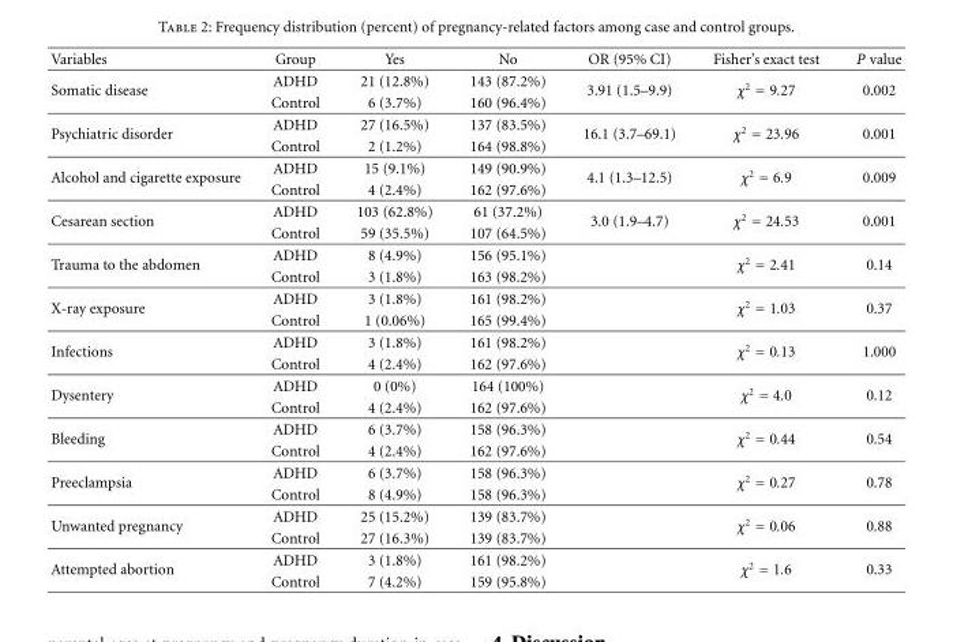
<table><thead><tr><td>Variables</td><td>Group</td><td>Yes</td><td>No</td><td>OR (95% CI)</td><td>Fisher’s exact test</td><td>P value</td></tr></thead><tbody><tr><td rowspan="2">Somatic disease</td><td>ADHD</td><td>21 (12.8%)</td><td>143 (87.2%)</td><td rowspan="2">3.91 (1.5–9.9)</td><td rowspan="2">χ<sup>2</sup> = 9.27</td><td rowspan="2">0.002</td></tr><tr><td>Control</td><td>6 (3.7%)</td><td>160 (96.4%)</td></tr><tr><td rowspan="2">Psychiatric disorder</td><td>ADHD</td><td>27 (16.5%)</td><td>137 (83.5%)</td><td rowspan="2">16.1 (3.7–69.1)</td><td rowspan="2">χ<sup>2</sup> = 23.96</td><td rowspan="2">0.001</td></tr><tr><td>Control</td><td>2 (1.2%)</td><td>164 (98.8%)</td></tr><tr><td rowspan="2">Alcohol and cigarette exposure</td><td>ADHD</td><td>15 (9.1%)</td><td>149 (90.9%)</td><td rowspan="2">4.1 (1.3–12.5)</td><td rowspan="2">χ<sup>2</sup> = 6.9</td><td rowspan="2">0.009</td></tr><tr><td>Control</td><td>4 (2.4%)</td><td>162 (97.6%)</td></tr><tr><td rowspan="2">Cesarean section</td><td>ADHD</td><td>103 (62.8%)</td><td>61 (37.2%)</td><td rowspan="2">3.0 (1.9–4.7)</td><td rowspan="2">χ<sup>2</sup> = 24.53</td><td rowspan="2">0.001</td></tr><tr><td>Control</td><td>59 (35.5%)</td><td>107 (64.5%)</td></tr><tr><td rowspan="2">Trauma to the abdomen</td><td>ADHD</td><td>8 (4.9%)</td><td>156 (95.1%)</td><td rowspan="2"></td><td rowspan="2">χ<sup>2</sup> = 2.41</td><td rowspan="2">0.14</td></tr><tr><td>Control</td><td>3 (1.8%)</td><td>163 (98.2%)</td></tr><tr><td rowspan="2">X-ray exposure</td><td>ADHD</td><td>3 (1.8%)</td><td>161 (98.2%)</td><td rowspan="2"></td><td rowspan="2">χ<sup>2</sup> = 1.03</td><td rowspan="2">0.37</td></tr><tr><td>Control</td><td>1 (0.06%)</td><td>165 (99.4%)</td></tr><tr><td rowspan="2">Infections</td><td>ADHD</td><td>3 (1.8%)</td><td>161 (98.2%)</td><td rowspan="2"></td><td rowspan="2">χ<sup>2</sup> = 0.13</td><td rowspan="2">1.000</td></tr><tr><td>Control</td><td>4 (2.4%)</td><td>162 (97.6%)</td></tr><tr><td rowspan="2">Dysentery</td><td>ADHD</td><td>0 (0%)</td><td>164 (100%)</td><td rowspan="2"></td><td rowspan="2">χ<sup>2</sup> = 4.0</td><td rowspan="2">0.12</td></tr><tr><td>Control</td><td>4 (2.4%)</td><td>162 (97.6%)</td></tr><tr><td rowspan="2">Bleeding</td><td>ADHD</td><td>6 (3.7%)</td><td>158 (96.3%)</td><td rowspan="2"></td><td rowspan="2">χ<sup>2</sup> = 0.44</td><td rowspan="2">0.54</td></tr><tr><td>Control</td><td>4 (2.4%)</td><td>162 (97.6%)</td></tr><tr><td rowspan="2">Preeclampsia</td><td>ADHD</td><td>6 (3.7%)</td><td>158 (96.3%)</td><td rowspan="2"></td><td rowspan="2">χ<sup>2</sup> = 0.27</td><td rowspan="2">0.78</td></tr><tr><td>Control</td><td>8 (4.9%)</td><td>158 (96.3%)</td></tr><tr><td rowspan="2">Unwanted pregnancy</td><td>ADHD</td><td>25 (15.2%)</td><td>139 (83.7%)</td><td rowspan="2"></td><td rowspan="2">χ<sup>2</sup> = 0.06</td><td rowspan="2">0.88</td></tr><tr><td>Control</td><td>27 (16.3%)</td><td>139 (83.7%)</td></tr><tr><td rowspan="2">Attempted abortion</td><td>ADHD</td><td>3 (1.8%)</td><td>161 (98.2%)</td><td rowspan="2"></td><td rowspan="2">χ<sup>2</sup> = 1.6</td><td rowspan="2">0.33</td></tr><tr><td>Control</td><td>7 (4.2%)</td><td>159 (95.8%)</td></tr></tbody></table>